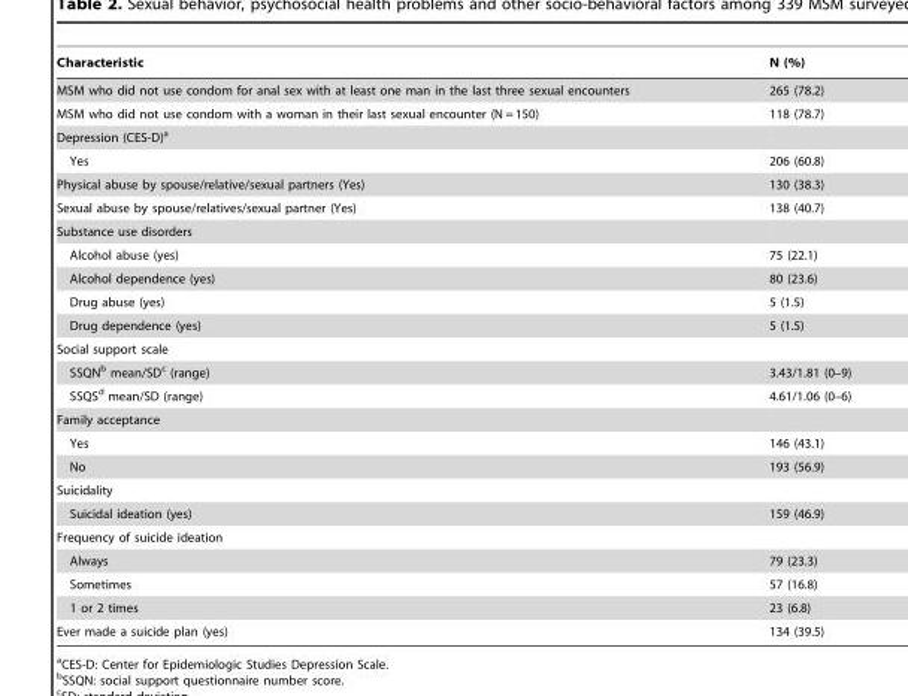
<table><thead><tr><td>Characteristic</td><td>N (%)</td></tr></thead><tbody><tr><td>MSM who did not use condom for anal sex with at least one man in the last three sexual encounters</td><td>265 (78.2)</td></tr><tr><td>MSM who did not use condom with a woman in their last sexual encounter (N = 150)</td><td>118 (78.7)</td></tr><tr><td colspan="2">Depression (CES-D)<sup>a</sup></td></tr><tr><td>Yes</td><td>206 (60.8)</td></tr><tr><td>Physical abuse by spouse/relative/sexual partners (Yes)</td><td>130 (38.3)</td></tr><tr><td>Sexual abuse by spouse/relatives/sexual partner (Yes)</td><td>138 (40.7)</td></tr><tr><td colspan="2">Substance use disorders</td></tr><tr><td>Alcohol abuse (yes)</td><td>75 (22.1)</td></tr><tr><td>Alcohol dependence (yes)</td><td>80 (23.6)</td></tr><tr><td>Drug abuse (yes)</td><td>5 (1.5)</td></tr><tr><td>Drug dependence (yes)</td><td>5 (1.5)</td></tr><tr><td colspan="2">Social support scale</td></tr><tr><td>SSQN<sup>b</sup> mean/SD<sup>c</sup> (range)</td><td>3.43/1.81 (0–9)</td></tr><tr><td>SSQS<sup>d</sup> mean/SD (range)</td><td>4.61/1.06 (0–6)</td></tr><tr><td colspan="2">Family acceptance</td></tr><tr><td>Yes</td><td>146 (43.1)</td></tr><tr><td>No</td><td>193 (56.9)</td></tr><tr><td colspan="2">Suicidality</td></tr><tr><td>Suicidal ideation (yes)</td><td>159 (46.9)</td></tr><tr><td colspan="2">Frequency of suicide ideation</td></tr><tr><td>Always</td><td>79 (23.3)</td></tr><tr><td>Sometimes</td><td>57 (16.8)</td></tr><tr><td>1 or 2 times</td><td>23 (6.8)</td></tr><tr><td>Ever made a suicide plan (yes)</td><td>134 (39.5)</td></tr></tbody></table>